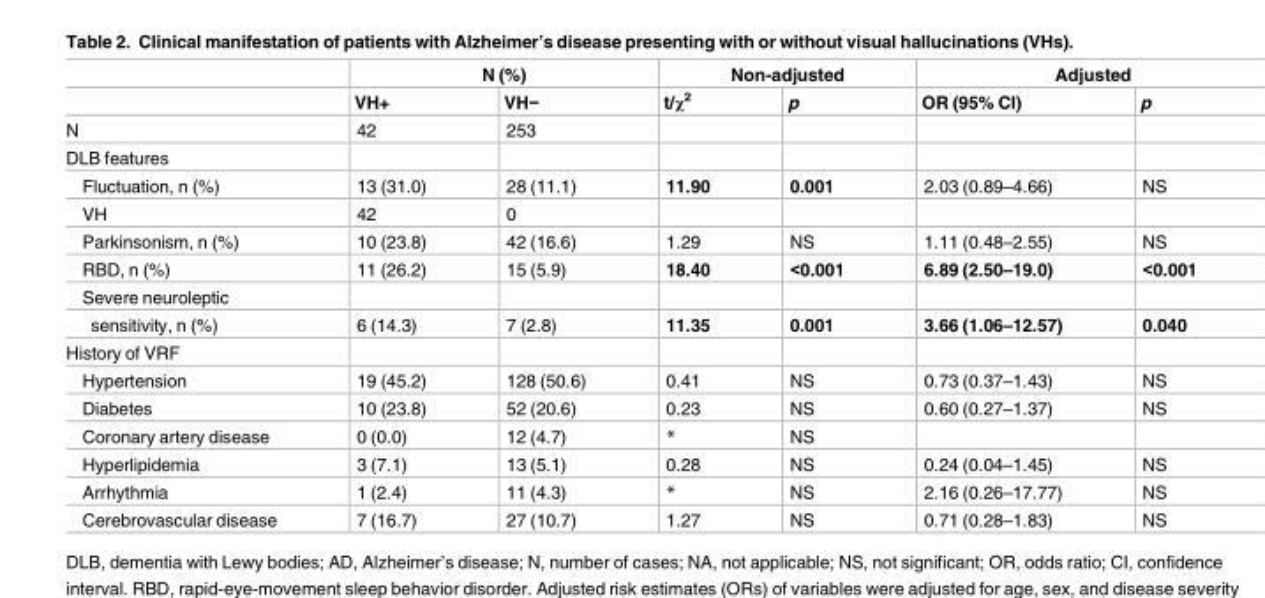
<table><thead><tr><td rowspan="2"></td><td colspan="2">N (%)</td><td colspan="2">Non-adjusted</td><td colspan="2">Adjusted</td></tr><tr><td>VH+</td><td>VH−</td><td>t/χ<sup>2</sup></td><td>p</td><td>OR (95% CI)</td><td>p</td></tr></thead><tbody><tr><td>N</td><td>42</td><td>253</td><td></td><td></td><td></td><td></td></tr><tr><td colspan="7">DLB features</td></tr><tr><td>Fluctuation, n (%)</td><td>13 (31.0)</td><td>28 (11.1)</td><td>11.90</td><td>0.001</td><td>2.03 (0.89–4.66)</td><td>NS</td></tr><tr><td>VH</td><td>42</td><td>0</td><td></td><td></td><td></td><td></td></tr><tr><td>Parkinsonism, n (%)</td><td>10 (23.8)</td><td>42 (16.6)</td><td>1.29</td><td>NS</td><td>1.11 (0.48–2.55)</td><td>NS</td></tr><tr><td>RBD, n (%)</td><td>11 (26.2)</td><td>15 (5.9)</td><td>18.40</td><td>&lt;0.001</td><td>6.89 (2.50–19.0)</td><td>&lt;0.001</td></tr><tr><td colspan="7">Severe neuroleptic</td></tr><tr><td>sensitivity, n (%)</td><td>6 (14.3)</td><td>7 (2.8)</td><td>11.35</td><td>0.001</td><td>3.66 (1.06–12.57)</td><td>0.040</td></tr><tr><td colspan="7">History of VRF</td></tr><tr><td>Hypertension</td><td>19 (45.2)</td><td>128 (50.6)</td><td>0.41</td><td>NS</td><td>0.73 (0.37–1.43)</td><td>NS</td></tr><tr><td>Diabetes</td><td>10 (23.8)</td><td>52 (20.6)</td><td>0.23</td><td>NS</td><td>0.60 (0.27–1.37)</td><td>NS</td></tr><tr><td>Coronary artery disease</td><td>0 (0.0)</td><td>12 (4.7)</td><td>*</td><td>NS</td><td></td><td></td></tr><tr><td>Hyperlipidemia</td><td>3 (7.1)</td><td>13 (5.1)</td><td>0.28</td><td>NS</td><td>0.24 (0.04–1.45)</td><td>NS</td></tr><tr><td>Arrhythmia</td><td>1 (2.4)</td><td>11 (4.3)</td><td>*</td><td>NS</td><td>2.16 (0.26–17.77)</td><td>NS</td></tr><tr><td>Cerebrovascular disease</td><td>7 (16.7)</td><td>27 (10.7)</td><td>1.27</td><td>NS</td><td>0.71 (0.28–1.83)</td><td>NS</td></tr></tbody></table>